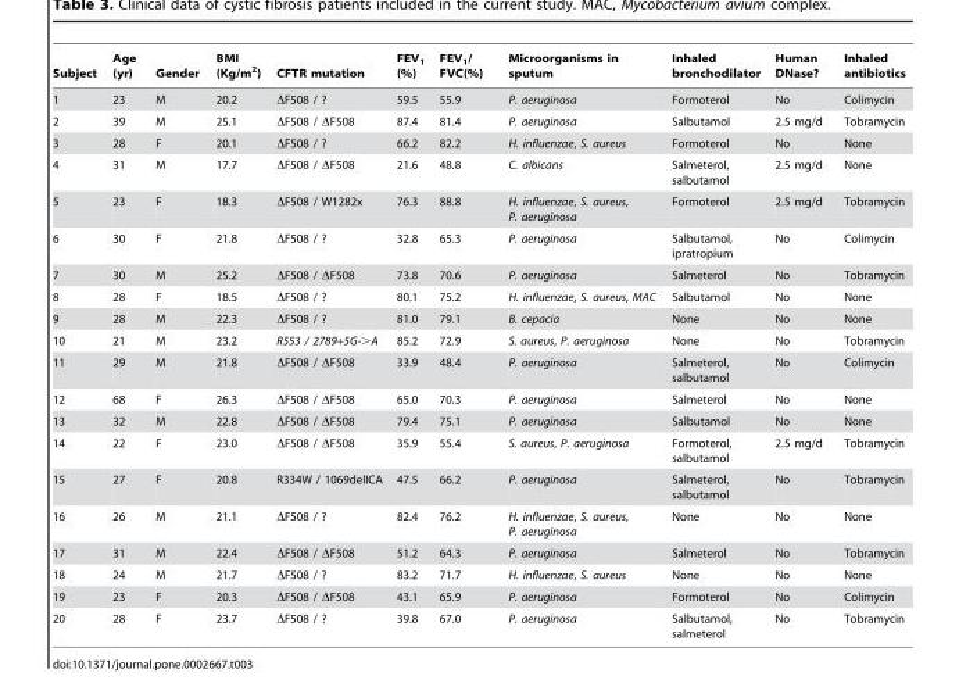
<table><thead><tr><td>Subject</td><td>Age (yr)</td><td>Gender</td><td>BMI (Kg/m<sup>2</sup>)</td><td>CFTR mutation</td><td>FEV<sub>1</sub> (%)</td><td>FEV<sub>1</sub>/ FVC(%)</td><td>Microorganisms in sputum</td><td>Inhaled bronchodilator</td><td>Human DNase?</td><td>Inhaled antibiotics</td></tr></thead><tbody><tr><td>1</td><td>23</td><td>M</td><td>20.2</td><td>ΔF508 / ?</td><td>59.5</td><td>55.9</td><td>P. aeruginosa</td><td>Formoterol</td><td>No</td><td>Colimycin</td></tr><tr><td>2</td><td>39</td><td>M</td><td>25.1</td><td>ΔF508 / ΔF508</td><td>87.4</td><td>81.4</td><td>P. aeruginosa</td><td>Salbutamol</td><td>2.5 mg/d</td><td>Tobramycin</td></tr><tr><td>3</td><td>28</td><td>F</td><td>20.1</td><td>ΔF508 / ?</td><td>66.2</td><td>82.2</td><td>H. influenzae, S. aureus</td><td>Formoterol</td><td>No</td><td>None</td></tr><tr><td>4</td><td>31</td><td>M</td><td>17.7</td><td>ΔF508 / ΔF508</td><td>21.6</td><td>48.8</td><td>C. albicans</td><td>Salmeterol, salbutamol</td><td>2.5 mg/d</td><td>None</td></tr><tr><td>5</td><td>23</td><td>F</td><td>18.3</td><td>ΔF508 / W1282x</td><td>76.3</td><td>88.8</td><td>H. influenzae, S. aureus, P. aeruginosa</td><td>Formoterol</td><td>2.5 mg/d</td><td>Tobramycin</td></tr><tr><td>6</td><td>30</td><td>F</td><td>21.8</td><td>ΔF508 / ?</td><td>32.8</td><td>65.3</td><td>P. aeruginosa</td><td>Salbutamol, ipratropium</td><td>No</td><td>Colimycin</td></tr><tr><td>7</td><td>30</td><td>M</td><td>25.2</td><td>ΔF508 / ΔF508</td><td>73.8</td><td>70.6</td><td>P. aeruginosa</td><td>Salmeterol</td><td>No</td><td>Tobramycin</td></tr><tr><td>8</td><td>28</td><td>F</td><td>18.5</td><td>ΔF508 / ?</td><td>80.1</td><td>75.2</td><td>H. influenzae, S. aureus, MAC</td><td>Salbutamol</td><td>No</td><td>None</td></tr><tr><td>9</td><td>28</td><td>M</td><td>22.3</td><td>ΔF508 / ?</td><td>81.0</td><td>79.1</td><td>B. cepacia</td><td>None</td><td>No</td><td>None</td></tr><tr><td>10</td><td>21</td><td>M</td><td>23.2</td><td>R553 / 2789+5G-&gt;A</td><td>85.2</td><td>72.9</td><td>S. aureus, P. aeruginosa</td><td>None</td><td>No</td><td>Tobramycin</td></tr><tr><td>11</td><td>29</td><td>M</td><td>21.8</td><td>ΔF508 / ΔF508</td><td>33.9</td><td>48.4</td><td>P. aeruginosa</td><td>Salmeterol, salbutamol</td><td>No</td><td>Colimycin</td></tr><tr><td>12</td><td>68</td><td>F</td><td>26.3</td><td>ΔF508 / ΔF508</td><td>65.0</td><td>70.3</td><td>P. aeruginosa</td><td>Salmeterol</td><td>No</td><td>None</td></tr><tr><td>13</td><td>32</td><td>M</td><td>22.8</td><td>ΔF508 / ΔF508</td><td>79.4</td><td>75.1</td><td>P. aeruginosa</td><td>Salbutamol</td><td>No</td><td>None</td></tr><tr><td>14</td><td>22</td><td>F</td><td>23.0</td><td>ΔF508 / ΔF508</td><td>35.9</td><td>55.4</td><td>S. aureus, P. aeruginosa</td><td>Formoterol, salbutamol</td><td>2.5 mg/d</td><td>Tobramycin</td></tr><tr><td>15</td><td>27</td><td>F</td><td>20.8</td><td>R334W / 1069delICA</td><td>47.5</td><td>66.2</td><td>P. aeruginosa</td><td>Salmeterol, salbutamol</td><td>No</td><td>Tobramycin</td></tr><tr><td>16</td><td>26</td><td>M</td><td>21.1</td><td>ΔF508 / ?</td><td>82.4</td><td>76.2</td><td>H. influenzae, S. aureus, P. aeruginosa</td><td>None</td><td>No</td><td>None</td></tr><tr><td>17</td><td>31</td><td>M</td><td>22.4</td><td>ΔF508 / ΔF508</td><td>51.2</td><td>64.3</td><td>P. aeruginosa</td><td>Salmeterol</td><td>No</td><td>Tobramycin</td></tr><tr><td>18</td><td>24</td><td>M</td><td>21.7</td><td>ΔF508 / ?</td><td>83.2</td><td>71.7</td><td>H. influenzae, S. aureus</td><td>None</td><td>No</td><td>None</td></tr><tr><td>19</td><td>23</td><td>F</td><td>20.3</td><td>ΔF508 / ΔF508</td><td>43.1</td><td>65.9</td><td>P. aeruginosa</td><td>Formoterol</td><td>No</td><td>Colimycin</td></tr><tr><td>20</td><td>28</td><td>F</td><td>23.7</td><td>ΔF508 / ?</td><td>39.8</td><td>67.0</td><td>P. aeruginosa</td><td>Salbutamol, salmeterol</td><td>No</td><td>Tobramycin</td></tr></tbody></table>